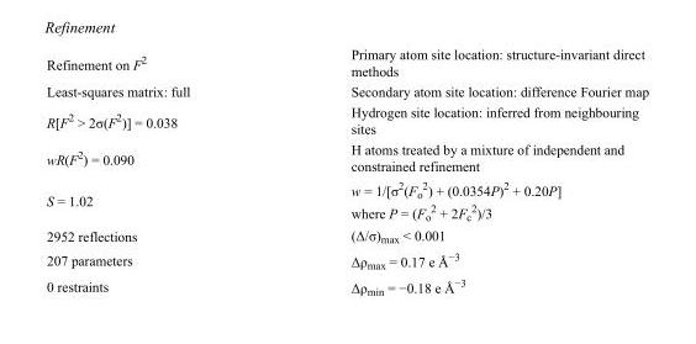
<table><tbody><tr><td>Refinement on F<sup>2</sup></td><td>Primary atom site location: structure-invariant direct methods</td></tr><tr><td>Least-squares matrix: full</td><td>Secondary atom site location: difference Fourier map</td></tr><tr><td>R[F<sup>2</sup> &gt; 2σ(F<sup>2</sup>)] = 0.038</td><td>Hydrogen site location: inferred from neighbouring sites</td></tr><tr><td>wR(F<sup>2</sup>) = 0.090</td><td>H atoms treated by a mixture of independent and constrained refinement</td></tr><tr><td>S = 1.02</td><td>w = 1/[σ<sup>2</sup>(F<sub>o</sub> <sup>2</sup>) + (0.0354P)<sup>2</sup> + 0.20P] where P = (F<sub>o</sub> <sup>2</sup> + 2F<sub>c</sub> <sup>2</sup>)/3</td></tr><tr><td>2952 reflections</td><td>(Δ/σ)<sub>max</sub> &lt; 0.001</td></tr><tr><td>207 parameters</td><td>Δρ<sub>max</sub> = 0.17 e Å<sup>−3</sup></td></tr><tr><td>0 restraints</td><td>Δρ<sub>min</sub> = −0.18 e Å<sup>−3</sup></td></tr></tbody></table>